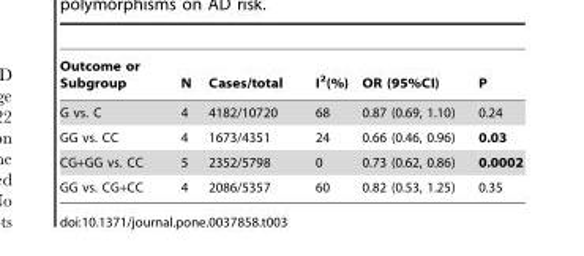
<table><thead><tr><td>Outcome or Subgroup</td><td>N</td><td>Cases/total</td><td>I<sup>2</sup>(%)</td><td>OR (95%CI)</td><td>P</td></tr></thead><tbody><tr><td>G vs. C</td><td>4</td><td>4182/10720</td><td>68</td><td>0.87 (0.69, 1.10)</td><td>0.24</td></tr><tr><td>GG vs. CC</td><td>4</td><td>1673/4351</td><td>24</td><td>0.66 (0.46, 0.96)</td><td>0.03</td></tr><tr><td>CG+GG vs. CC</td><td>5</td><td>2352/5798</td><td>0</td><td>0.73 (0.62, 0.86)</td><td>0.0002</td></tr><tr><td>GG vs. CG+CC</td><td>4</td><td>2086/5357</td><td>60</td><td>0.82 (0.53, 1.25)</td><td>0.35</td></tr></tbody></table>